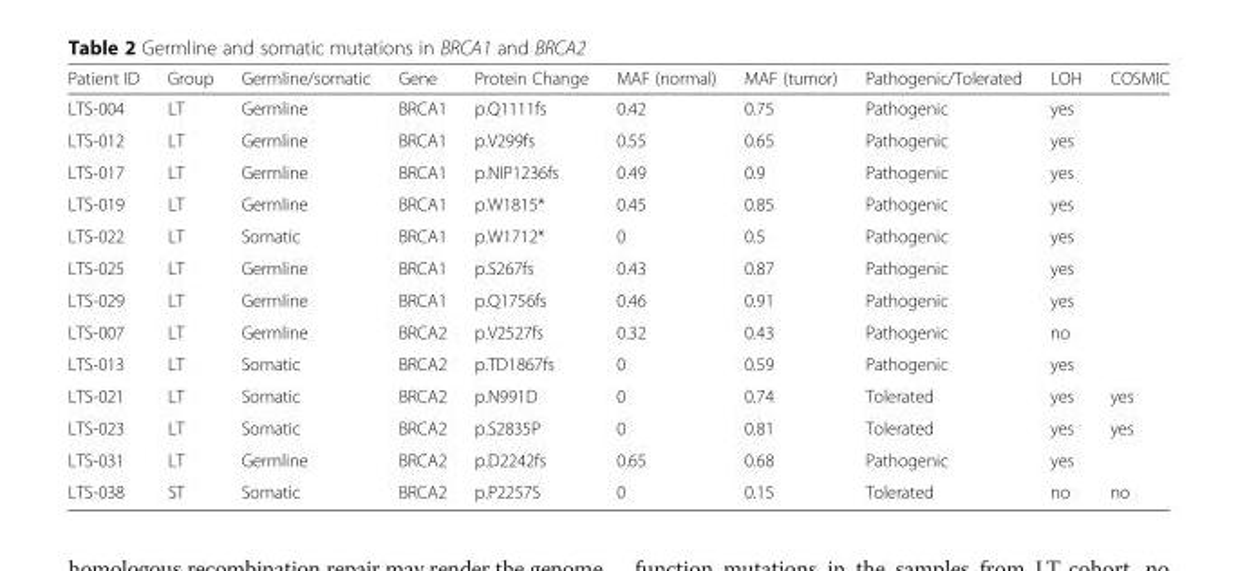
<table><thead><tr><td>Patient ID</td><td>Group</td><td>Germline/somatic</td><td>Gene</td><td>Protein Change</td><td>MAF (normal)</td><td>MAF (tumor)</td><td>Pathogenic/Tolerated</td><td>LOH</td><td>COSMIC</td></tr></thead><tbody><tr><td>LTS-004</td><td>LT</td><td>Germline</td><td>BRCA1</td><td>p.Q1111fs</td><td>0.42</td><td>0.75</td><td>Pathogenic</td><td>yes</td><td></td></tr><tr><td>LTS-012</td><td>LT</td><td>Germline</td><td>BRCA1</td><td>p.V299fs</td><td>0.55</td><td>0.65</td><td>Pathogenic</td><td>yes</td><td></td></tr><tr><td>LTS-017</td><td>LT</td><td>Germline</td><td>BRCA1</td><td>p.NIP1236fs</td><td>0.49</td><td>0.9</td><td>Pathogenic</td><td>yes</td><td></td></tr><tr><td>LTS-019</td><td>LT</td><td>Germline</td><td>BRCA1</td><td>p.W1815*</td><td>0.45</td><td>0.85</td><td>Pathogenic</td><td>yes</td><td></td></tr><tr><td>LTS-022</td><td>LT</td><td>Somatic</td><td>BRCA1</td><td>p.W1712*</td><td>0</td><td>0.5</td><td>Pathogenic</td><td>yes</td><td></td></tr><tr><td>LTS-025</td><td>LT</td><td>Germline</td><td>BRCA1</td><td>p.S267fs</td><td>0.43</td><td>0.87</td><td>Pathogenic</td><td>yes</td><td></td></tr><tr><td>LTS-029</td><td>LT</td><td>Germline</td><td>BRCA1</td><td>p.Q1756fs</td><td>0.46</td><td>0.91</td><td>Pathogenic</td><td>yes</td><td></td></tr><tr><td>LTS-007</td><td>LT</td><td>Germline</td><td>BRCA2</td><td>p.V2527fs</td><td>0.32</td><td>0.43</td><td>Pathogenic</td><td>no</td><td></td></tr><tr><td>LTS-013</td><td>LT</td><td>Somatic</td><td>BRCA2</td><td>p.TD1867fs</td><td>0</td><td>0.59</td><td>Pathogenic</td><td>yes</td><td></td></tr><tr><td>LTS-021</td><td>LT</td><td>Somatic</td><td>BRCA2</td><td>p.N991D</td><td>0</td><td>0.74</td><td>Tolerated</td><td>yes</td><td>yes</td></tr><tr><td>LTS-023</td><td>LT</td><td>Somatic</td><td>BRCA2</td><td>p.S2835P</td><td>0</td><td>0.81</td><td>Tolerated</td><td>yes</td><td>yes</td></tr><tr><td>LTS-031</td><td>LT</td><td>Germline</td><td>BRCA2</td><td>p.D2242fs</td><td>0.65</td><td>0.68</td><td>Pathogenic</td><td>yes</td><td></td></tr><tr><td>LTS-038</td><td>ST</td><td>Somatic</td><td>BRCA2</td><td>p.P2257S</td><td>0</td><td>0.15</td><td>Tolerated</td><td>no</td><td>no</td></tr></tbody></table>